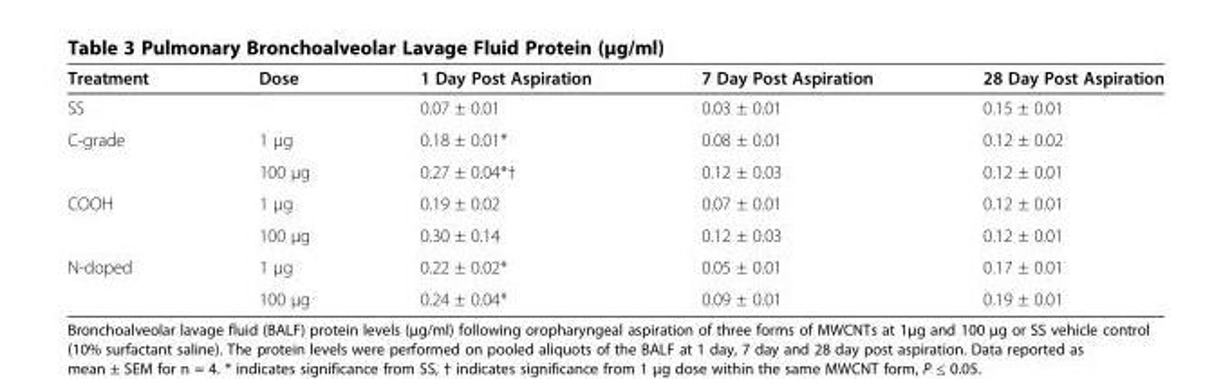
<table><thead><tr><td>Treatment</td><td>Dose</td><td>1 Day Post Aspiration</td><td>7 Day Post Aspiration</td><td>28 Day Post Aspiration</td></tr></thead><tbody><tr><td>SS</td><td></td><td>0.07 ± 0.01</td><td>0.03 ± 0.01</td><td>0.15 ± 0.01</td></tr><tr><td rowspan="2">C-grade</td><td>1 μg</td><td>0.18 ± 0.01*</td><td>0.08 ± 0.01</td><td>0.12 ± 0.02</td></tr><tr><td>100 μg</td><td>0.27 ± 0.04*†</td><td>0.12 ± 0.03</td><td>0.12 ± 0.01</td></tr><tr><td rowspan="2">COOH</td><td>1 μg</td><td>0.19 ± 0.02</td><td>0.07 ± 0.01</td><td>0.12 ± 0.01</td></tr><tr><td>100 μg</td><td>0.30 ± 0.14</td><td>0.12 ± 0.03</td><td>0.12 ± 0.01</td></tr><tr><td rowspan="2">N-doped</td><td>1 μg</td><td>0.22 ± 0.02*</td><td>0.05 ± 0.01</td><td>0.17 ± 0.01</td></tr><tr><td>100 μg</td><td>0.24 ± 0.04*</td><td>0.09 ± 0.01</td><td>0.19 ± 0.01</td></tr></tbody></table>